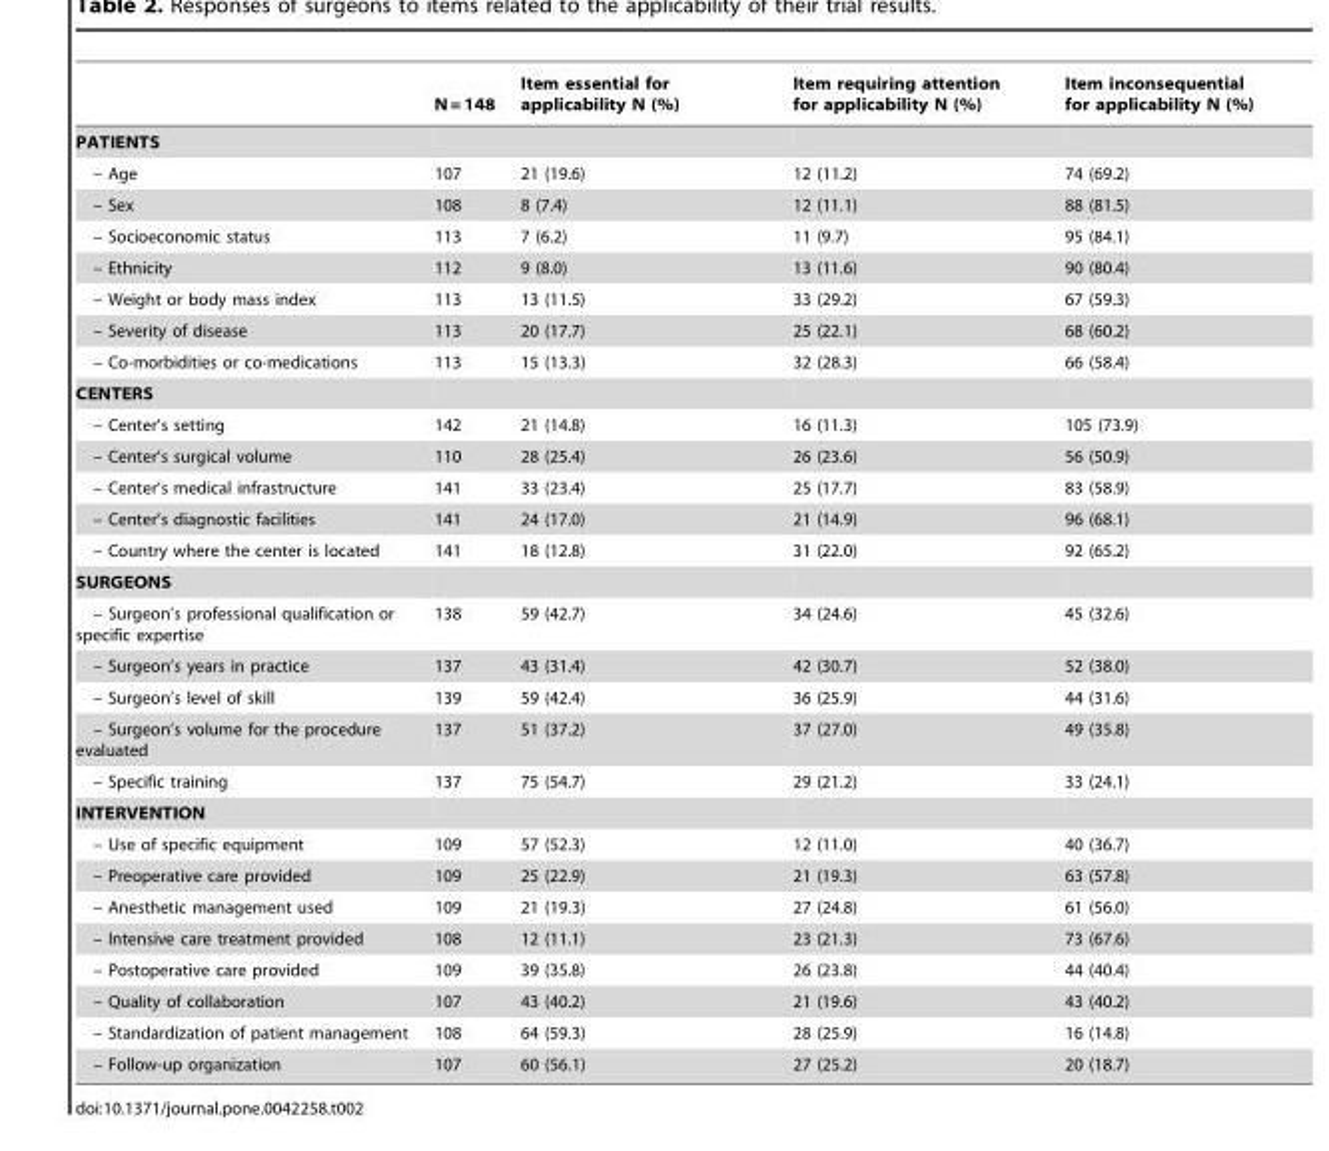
<table><thead><tr><td></td><td>N = 148</td><td>Item essential for applicability N (%)</td><td>Item requiring attention for applicability N (%)</td><td>Item inconsequential for applicability N (%)</td></tr></thead><tbody><tr><td colspan="5">PATIENTS</td></tr><tr><td>– Age</td><td>107</td><td>21 (19.6)</td><td>12 (11.2)</td><td>74 (69.2)</td></tr><tr><td>– Sex</td><td>108</td><td>8 (7.4)</td><td>12 (11.1)</td><td>88 (81.5)</td></tr><tr><td>– Socioeconomic status</td><td>113</td><td>7 (6.2)</td><td>11 (9.7)</td><td>95 (84.1)</td></tr><tr><td>– Ethnicity</td><td>112</td><td>9 (8.0)</td><td>13 (11.6)</td><td>90 (80.4)</td></tr><tr><td>– Weight or body mass index</td><td>113</td><td>13 (11.5)</td><td>33 (29.2)</td><td>67 (59.3)</td></tr><tr><td>– Severity of disease</td><td>113</td><td>20 (17.7)</td><td>25 (22.1)</td><td>68 (60.2)</td></tr><tr><td>– Co-morbidities or co-medications</td><td>113</td><td>15 (13.3)</td><td>32 (28.3)</td><td>66 (58.4)</td></tr><tr><td colspan="5">CENTERS</td></tr><tr><td>– Center’s setting</td><td>142</td><td>21 (14.8)</td><td>16 (11.3)</td><td>105 (73.9)</td></tr><tr><td>– Center’s surgical volume</td><td>110</td><td>28 (25.4)</td><td>26 (23.6)</td><td>56 (50.9)</td></tr><tr><td>– Center’s medical infrastructure</td><td>141</td><td>33 (23.4)</td><td>25 (17.7)</td><td>83 (58.9)</td></tr><tr><td>– Center’s diagnostic facilities</td><td>141</td><td>24 (17.0)</td><td>21 (14.9)</td><td>96 (68.1)</td></tr><tr><td>– Country where the center is located</td><td>141</td><td>18 (12.8)</td><td>31 (22.0)</td><td>92 (65.2)</td></tr><tr><td colspan="5">SURGEONS</td></tr><tr><td>– Surgeon’s professional qualification or specific expertise</td><td>138</td><td>59 (42.7)</td><td>34 (24.6)</td><td>45 (32.6)</td></tr><tr><td>– Surgeon’s years in practice</td><td>137</td><td>43 (31.4)</td><td>42 (30.7)</td><td>52 (38.0)</td></tr><tr><td>– Surgeon’s level of skill</td><td>139</td><td>59 (42.4)</td><td>36 (25.9)</td><td>44 (31.6)</td></tr><tr><td>– Surgeon’s volume for the procedure evaluated</td><td>137</td><td>51 (37.2)</td><td>37 (27.0)</td><td>49 (35.8)</td></tr><tr><td>– Specific training</td><td>137</td><td>75 (54.7)</td><td>29 (21.2)</td><td>33 (24.1)</td></tr><tr><td colspan="5">INTERVENTION</td></tr><tr><td>– Use of specific equipment</td><td>109</td><td>57 (52.3)</td><td>12 (11.0)</td><td>40 (36.7)</td></tr><tr><td>– Preoperative care provided</td><td>109</td><td>25 (22.9)</td><td>21 (19.3)</td><td>63 (57.8)</td></tr><tr><td>– Anesthetic management used</td><td>109</td><td>21 (19.3)</td><td>27 (24.8)</td><td>61 (56.0)</td></tr><tr><td>– Intensive care treatment provided</td><td>108</td><td>12 (11.1)</td><td>23 (21.3)</td><td>73 (67.6)</td></tr><tr><td>– Postoperative care provided</td><td>109</td><td>39 (35.8)</td><td>26 (23.8)</td><td>44 (40.4)</td></tr><tr><td>– Quality of collaboration</td><td>107</td><td>43 (40.2)</td><td>21 (19.6)</td><td>43 (40.2)</td></tr><tr><td>– Standardization of patient management</td><td>108</td><td>64 (59.3)</td><td>28 (25.9)</td><td>16 (14.8)</td></tr><tr><td>– Follow-up organization</td><td>107</td><td>60 (56.1)</td><td>27 (25.2)</td><td>20 (18.7)</td></tr></tbody></table>